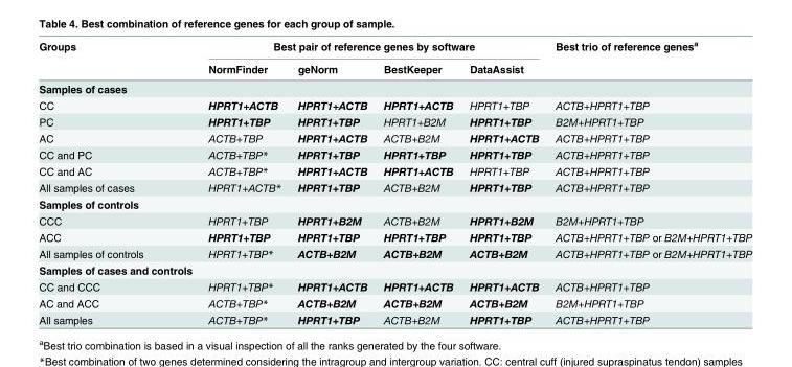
<table><thead><tr><td rowspan="2">Groups</td><td colspan="4">Best pair of reference genes by software</td><td rowspan="2">Best trio of reference genes<sup>a</sup></td></tr><tr><td>NormFinder</td><td>geNorm</td><td>BestKeeper</td><td>DataAssist</td></tr></thead><tbody><tr><td colspan="6">Samples of cases</td></tr><tr><td>CC</td><td>HPRT1+ACTB</td><td>HPRT1+ACTB</td><td>HPRT1+ACTB</td><td>HPRT1+TBP</td><td>ACTB+HPRT1+TBP</td></tr><tr><td>PC</td><td>HPRT1+TBP</td><td>HPRT1+TBP</td><td>HPRT1+B2M</td><td>HPRT1+TBP</td><td>B2M+HPRT1+TBP</td></tr><tr><td>AC</td><td>ACTB+TBP</td><td>HPRT1+ACTB</td><td>ACTB+B2M</td><td>HPRT1+ACTB</td><td>ACTB+HPRT1+TBP</td></tr><tr><td>CC and PC</td><td>ACTB+TBP*</td><td>HPRT1+TBP</td><td>HPRT1+TBP</td><td>HPRT1+TBP</td><td>ACTB+HPRT1+TBP</td></tr><tr><td>CC and AC</td><td>ACTB+TBP*</td><td>HPRT1+ACTB</td><td>HPRT1+ACTB</td><td>HPRT1+TBP</td><td>ACTB+HPRT1+TBP</td></tr><tr><td>All samples of cases</td><td>HPRT1+ACTB*</td><td>HPRT1+TBP</td><td>ACTB+B2M</td><td>HPRT1+TBP</td><td>ACTB+HPRT1+TBP</td></tr><tr><td colspan="6">Samples of controls</td></tr><tr><td>CCC</td><td>HPRT1+TBP</td><td>HPRT1+B2M</td><td>ACTB+B2M</td><td>HPRT1+B2M</td><td>B2M+HPRT1+TBP</td></tr><tr><td>ACC</td><td>HPRT1+TBP</td><td>HPRT1+TBP</td><td>HPRT1+TBP</td><td>HPRT1+TBP</td><td>ACTB+HPRT1+TBP or B2M+HPRT1+TBP</td></tr><tr><td>All samples of controls</td><td>HPRT1+TBP*</td><td>ACTB+B2M</td><td>ACTB+B2M</td><td>ACTB+B2M</td><td>ACTB+HPRT1+TBP or B2M+HPRT1+TBP</td></tr><tr><td colspan="6">Samples of cases and controls</td></tr><tr><td>CC and CCC</td><td>HPRT1+TBP*</td><td>HPRT1+ACTB</td><td>HPRT1+ACTB</td><td>HPRT1+ACTB</td><td>ACTB+HPRT1+TBP</td></tr><tr><td>AC and ACC</td><td>ACTB+TBP*</td><td>ACTB+B2M</td><td>ACTB+B2M</td><td>ACTB+B2M</td><td>B2M+HPRT1+TBP</td></tr><tr><td>All samples</td><td>ACTB+TBP*</td><td>HPRT1+TBP</td><td>ACTB+B2M</td><td>HPRT1+TBP</td><td>ACTB+HPRT1+TBP</td></tr></tbody></table>